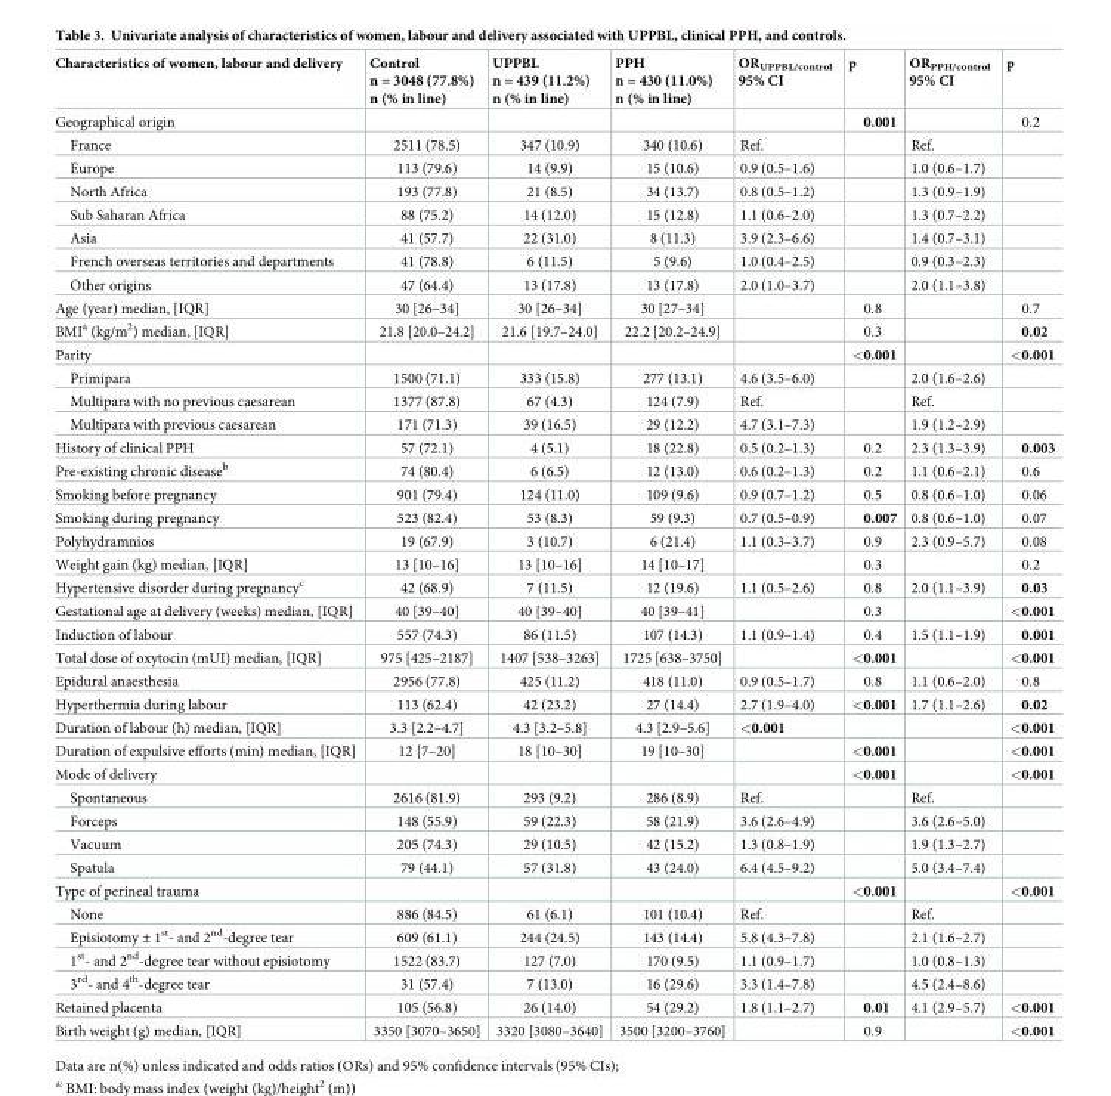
<table><thead><tr><td>Characteristics of women, labour and delivery</td><td>Control n = 3048 (77.8%) n (% in line)</td><td>UPPBL n = 439 (11.2%) n (% in line)</td><td>PPH n = 430 (11.0%) n (% in line)</td><td>OR<sub>UPPBL/control</sub> 95% CI</td><td>p</td><td>OR<sub>PPH/control</sub> 95% CI</td><td>p</td></tr></thead><tbody><tr><td>Geographical origin</td><td></td><td></td><td></td><td></td><td>0.001</td><td></td><td>0.2</td></tr><tr><td>France</td><td>2511 (78.5)</td><td>347 (10.9)</td><td>340 (10.6)</td><td>Ref.</td><td></td><td>Ref.</td><td></td></tr><tr><td>Europe</td><td>113 (79.6)</td><td>14 (9.9)</td><td>15 (10.6)</td><td>0.9 (0.5–1.6)</td><td></td><td>1.0 (0.6–1.7)</td><td></td></tr><tr><td>North Africa</td><td>193 (77.8)</td><td>21 (8.5)</td><td>34 (13.7)</td><td>0.8 (0.5–1.2)</td><td></td><td>1.3 (0.9–1.9)</td><td></td></tr><tr><td>Sub Saharan Africa</td><td>88 (75.2)</td><td>14 (12.0)</td><td>15 (12.8)</td><td>1.1 (0.6–2.0)</td><td></td><td>1.3 (0.7–2.2)</td><td></td></tr><tr><td>Asia</td><td>41 (57.7)</td><td>22 (31.0)</td><td>8 (11.3)</td><td>3.9 (2.3–6.6)</td><td></td><td>1.4 (0.7–3.1)</td><td></td></tr><tr><td>French overseas territories and departments</td><td>41 (78.8)</td><td>6 (11.5)</td><td>5 (9.6)</td><td>1.0 (0.4–2.5)</td><td></td><td>0.9 (0.3–2.3)</td><td></td></tr><tr><td>Other origins</td><td>47 (64.4)</td><td>13 (17.8)</td><td>13 (17.8)</td><td>2.0 (1.0–3.7)</td><td></td><td>2.0 (1.1–3.8)</td><td></td></tr><tr><td>Age (year) median, [IQR]</td><td>30 [26–34]</td><td>30 [26–34]</td><td>30 [27–34]</td><td></td><td>0.8</td><td></td><td>0.7</td></tr><tr><td>BMI<sup>a</sup> (kg/m<sup>2</sup>) median, [IQR]</td><td>21.8 [20.0–24.2]</td><td>21.6 [19.7–24.0]</td><td>22.2 [20.2–24.9]</td><td></td><td>0.3</td><td></td><td>0.02</td></tr><tr><td>Parity</td><td></td><td></td><td></td><td></td><td>&lt;0.001</td><td></td><td>&lt;0.001</td></tr><tr><td>Primipara</td><td>1500 (71.1)</td><td>333 (15.8)</td><td>277 (13.1)</td><td>4.6 (3.5–6.0)</td><td></td><td>2.0 (1.6–2.6)</td><td></td></tr><tr><td>Multipara with no previous caesarean</td><td>1377 (87.8)</td><td>67 (4.3)</td><td>124 (7.9)</td><td>Ref.</td><td></td><td>Ref.</td><td></td></tr><tr><td>Multipara with previous caesarean</td><td>171 (71.3)</td><td>39 (16.5)</td><td>29 (12.2)</td><td>4.7 (3.1–7.3)</td><td></td><td>1.9 (1.2–2.9)</td><td></td></tr><tr><td>History of clinical PPH</td><td>57 (72.1)</td><td>4 (5.1)</td><td>18 (22.8)</td><td>0.5 (0.2–1.3)</td><td>0.2</td><td>2.3 (1.3–3.9)</td><td>0.003</td></tr><tr><td>Pre-existing chronic disease<sup>b</sup></td><td>74 (80.4)</td><td>6 (6.5)</td><td>12 (13.0)</td><td>0.6 (0.2–1.3)</td><td>0.2</td><td>1.1 (0.6–2.1)</td><td>0.6</td></tr><tr><td>Smoking before pregnancy</td><td>901 (79.4)</td><td>124 (11.0)</td><td>109 (9.6)</td><td>0.9 (0.7–1.2)</td><td>0.5</td><td>0.8 (0.6–1.0)</td><td>0.06</td></tr><tr><td>Smoking during pregnancy</td><td>523 (82.4)</td><td>53 (8.3)</td><td>59 (9.3)</td><td>0.7 (0.5–0.9)</td><td>0.007</td><td>0.8 (0.6–1.0)</td><td>0.07</td></tr><tr><td>Polyhydramnios</td><td>19 (67.9)</td><td>3 (10.7)</td><td>6 (21.4)</td><td>1.1 (0.3–3.7)</td><td>0.9</td><td>2.3 (0.9–5.7)</td><td>0.08</td></tr><tr><td>Weight gain (kg) median, [IQR]</td><td>13 [10–16]</td><td>13 [10–16]</td><td>14 [10–17]</td><td></td><td>0.3</td><td></td><td>0.2</td></tr><tr><td>Hypertensive disorder during pregnancy<sup>c</sup></td><td>42 (68.9)</td><td>7 (11.5)</td><td>12 (19.6)</td><td>1.1 (0.5–2.6)</td><td>0.8</td><td>2.0 (1.1–3.9)</td><td>0.03</td></tr><tr><td>Gestational age at delivery (weeks) median, [IQR]</td><td>40 [39–40]</td><td>40 [39–40]</td><td>40 [39–41]</td><td></td><td>0.3</td><td></td><td>&lt;0.001</td></tr><tr><td>Induction of labour</td><td>557 (74.3)</td><td>86 (11.5)</td><td>107 (14.3)</td><td>1.1 (0.9–1.4)</td><td>0.4</td><td>1.5 (1.1–1.9)</td><td>0.001</td></tr><tr><td>Total dose of oxytocin (mUI) median, [IQR]</td><td>975 [425–2187]</td><td>1407 [538–3263]</td><td>1725 [638–3750]</td><td></td><td>&lt;0.001</td><td></td><td>&lt;0.001</td></tr><tr><td>Epidural anaesthesia</td><td>2956 (77.8)</td><td>425 (11.2)</td><td>418 (11.0)</td><td>0.9 (0.5–1.7)</td><td>0.8</td><td>1.1 (0.6–2.0)</td><td>0.8</td></tr><tr><td>Hyperthermia during labour</td><td>113 (62.4)</td><td>42 (23.2)</td><td>27 (14.4)</td><td>2.7 (1.9–4.0)</td><td>&lt;0.001</td><td>1.7 (1.1–2.6)</td><td>0.02</td></tr><tr><td>Duration of labour (h) median, [IQR]</td><td>3.3 [2.2–4.7]</td><td>4.3 [3.2–5.8]</td><td>4.3 [2.9–5.6]</td><td>&lt;0.001</td><td></td><td></td><td>&lt;0.001</td></tr><tr><td>Duration of expulsive efforts (min) median, [IQR]</td><td>12 [7–20]</td><td>18 [10–30]</td><td>19 [10–30]</td><td></td><td>&lt;0.001</td><td></td><td>&lt;0.001</td></tr><tr><td>Mode of delivery</td><td></td><td></td><td></td><td></td><td>&lt;0.001</td><td></td><td>&lt;0.001</td></tr><tr><td>Spontaneous</td><td>2616 (81.9)</td><td>293 (9.2)</td><td>286 (8.9)</td><td>Ref.</td><td></td><td>Ref.</td><td></td></tr><tr><td>Forceps</td><td>148 (55.9)</td><td>59 (22.3)</td><td>58 (21.9)</td><td>3.6 (2.6–4.9)</td><td></td><td>3.6 (2.6–5.0)</td><td></td></tr><tr><td>Vacuum</td><td>205 (74.3)</td><td>29 (10.5)</td><td>42 (15.2)</td><td>1.3 (0.8–1.9)</td><td></td><td>1.9 (1.3–2.7)</td><td></td></tr><tr><td>Spatula</td><td>79 (44.1)</td><td>57 (31.8)</td><td>43 (24.0)</td><td>6.4 (4.5–9.2)</td><td></td><td>5.0 (3.4–7.4)</td><td></td></tr><tr><td>Type of perineal trauma</td><td></td><td></td><td></td><td></td><td>&lt;0.001</td><td></td><td>&lt;0.001</td></tr><tr><td>None</td><td>886 (84.5)</td><td>61 (6.1)</td><td>101 (10.4)</td><td>Ref.</td><td></td><td>Ref.</td><td></td></tr><tr><td>Episiotomy ± 1<sup>st</sup>- and 2<sup>nd</sup>-degree tear</td><td>609 (61.1)</td><td>244 (24.5)</td><td>143 (14.4)</td><td>5.8 (4.3–7.8)</td><td></td><td>2.1 (1.6–2.7)</td><td></td></tr><tr><td>1<sup>st</sup>- and 2<sup>nd</sup>-degree tear without episiotomy</td><td>1522 (83.7)</td><td>127 (7.0)</td><td>170 (9.5)</td><td>1.1 (0.9–1.7)</td><td></td><td>1.0 (0.8–1.3)</td><td></td></tr><tr><td>3<sup>rd</sup>- and 4<sup>th</sup>-degree tear</td><td>31 (57.4)</td><td>7 (13.0)</td><td>16 (29.6)</td><td>3.3 (1.4–7.8)</td><td></td><td>4.5 (2.4–8.6)</td><td></td></tr><tr><td>Retained placenta</td><td>105 (56.8)</td><td>26 (14.0)</td><td>54 (29.2)</td><td>1.8 (1.1–2.7)</td><td>0.01</td><td>4.1 (2.9–5.7)</td><td>&lt;0.001</td></tr><tr><td>Birth weight (g) median, [IQR]</td><td>3350 [3070–3650]</td><td>3320 [3080–3640]</td><td>3500 [3200–3760]</td><td></td><td>0.9</td><td></td><td>&lt;0.001</td></tr></tbody></table>